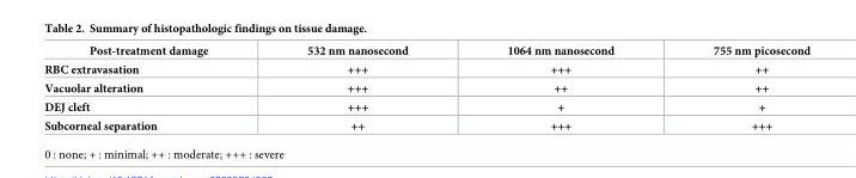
<table><thead><tr><td>Post-treatment damage</td><td>532 nm nanosecond</td><td>1064 nm nanosecond</td><td>755 nm picosecond</td></tr></thead><tbody><tr><td>RBC extravasation</td><td>+++</td><td>+++</td><td>++</td></tr><tr><td>Vacuolar alteration</td><td>+++</td><td>++</td><td>++</td></tr><tr><td>DEJ cleft</td><td>+++</td><td>+</td><td>+</td></tr><tr><td>Subcorneal separation</td><td>++</td><td>+++</td><td>+++</td></tr></tbody></table>